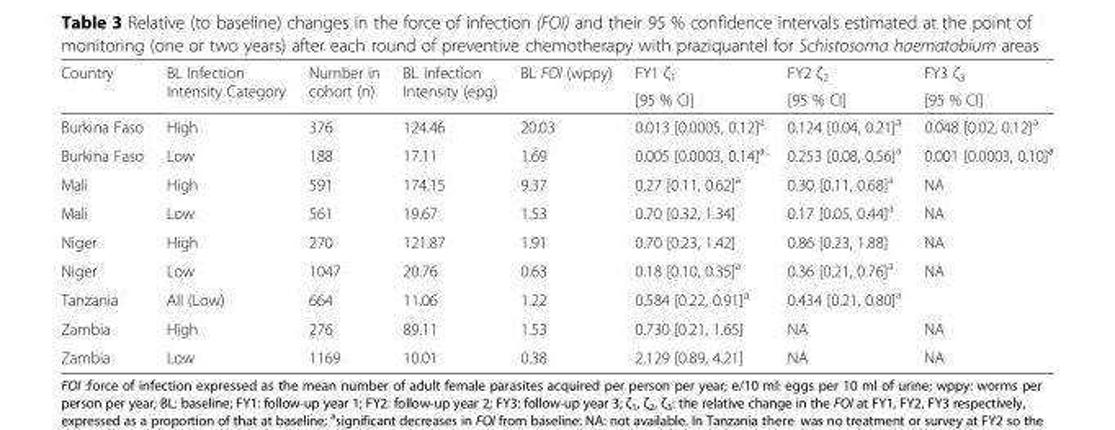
<table><thead><tr><td rowspan="2">Country</td><td rowspan="2">BL Infection Intensity Category</td><td rowspan="2">Number in cohort (n)</td><td rowspan="2">BL infection Intensity (epg)</td><td rowspan="2">BL FOI (wppy)</td><td rowspan="2">FY1 ζ<sub>1</sub> [95 % CI]</td><td rowspan="2">FY2 ζ<sub>2</sub> [95 % CI]</td><td rowspan="2">FY3 ζ<sub>3</sub> [95 % CI]</td></tr><tr></tr></thead><tbody><tr><td>Burkina Faso</td><td>High</td><td>376</td><td>124.46</td><td>20.03</td><td>0.013 [0.0005, 0.12]<sup>a</sup></td><td>0.124 [0.04, 0.21]<sup>a</sup></td><td>0.048 [0.02, 0.12]<sup>a</sup></td></tr><tr><td>Burkina Faso</td><td>Low</td><td>188</td><td>17.11</td><td>1.69</td><td>0.005 [0.0003, 0.14]<sup>a</sup></td><td>0.253 [0.08, 0.56]<sup>a</sup></td><td>0.001 [0.0003, 0.10]<sup>a</sup></td></tr><tr><td>Mali</td><td>High</td><td>591</td><td>174.15</td><td>9.37</td><td>0.27 [0.11, 0.62]<sup>a</sup></td><td>0.30 [0.11, 0.68]<sup>a</sup></td><td>NA</td></tr><tr><td>Mali</td><td>Low</td><td>561</td><td>19.67</td><td>1.53</td><td>0.70 [0.32, 1.34]</td><td>0.17 [0.05, 0.44]<sup>a</sup></td><td>NA</td></tr><tr><td>Niger</td><td>High</td><td>270</td><td>121.87</td><td>1.91</td><td>0.70 [0.23, 1.42]</td><td>0.86 [0.23, 1.88]</td><td>NA</td></tr><tr><td>Niger</td><td>Low</td><td>1047</td><td>20.76</td><td>0.63</td><td>0.18 [0.10, 0.35]<sup>a</sup></td><td>0.36 [0.21, 0.76]<sup>a</sup></td><td>NA</td></tr><tr><td>Tanzania</td><td>All (Low)</td><td>664</td><td>11.06</td><td>1.22</td><td>0.584 [0.22, 0.91]<sup>a</sup></td><td colspan="2">0.434 [0.21, 0.80]<sup>a</sup></td></tr><tr><td>Zambia</td><td>High</td><td>276</td><td>89.11</td><td>1.53</td><td>0.730 [0.21, 1.65]</td><td>NA</td><td>NA</td></tr><tr><td>Zambia</td><td>Low</td><td>1169</td><td>10.01</td><td>0.38</td><td>2.129 [0.89, 4.21]</td><td>NA</td><td>NA</td></tr></tbody></table>